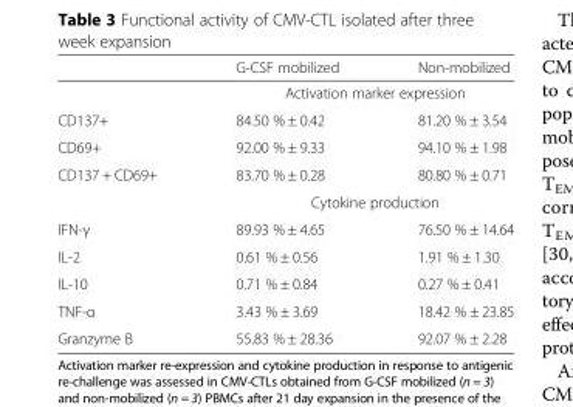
<table><thead><tr><td></td><td>G-CSF mobilized</td><td>Non-mobilized</td></tr></thead><tbody><tr><td></td><td colspan="2">Activation marker expression</td></tr><tr><td>CD137+</td><td>84.50 % ± 0.42</td><td>81.20 % ± 3.54</td></tr><tr><td>CD69+</td><td>92.00 % ± 9.33</td><td>94.10 % ± 1.98</td></tr><tr><td rowspan="2">CD137 + CD69+</td><td>83.70 % ± 0.28</td><td>80.80 % ± 0.71</td></tr><tr><td colspan="2">Cytokine production</td></tr><tr><td>IFN-γ</td><td>89.93 % ± 4.65</td><td>76.50 % ± 14.64</td></tr><tr><td>IL-2</td><td>0.61 % ± 0.56</td><td>1.91 % ± 1.30</td></tr><tr><td>IL-10</td><td>0.71 % ± 0.84</td><td>0.27 % ± 0.41</td></tr><tr><td>TNF-α</td><td>3.43 % ± 3.69</td><td>18.42 % ± 23.85</td></tr><tr><td>Granzyme B</td><td>55.83 % ± 28.36</td><td>92.07 % ± 2.28</td></tr></tbody></table>